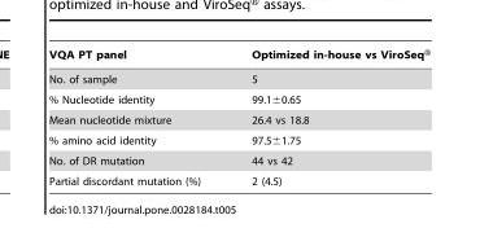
<table><thead><tr><td>VQA PT panel</td><td>Optimized in-house vs ViroSeq®</td></tr></thead><tbody><tr><td>No. of sample</td><td>5</td></tr><tr><td>% Nucleotide identity</td><td>99.1±0.65</td></tr><tr><td>Mean nucleotide mixture</td><td>26.4 vs 18.8</td></tr><tr><td>% amino acid identity</td><td>97.5±1.75</td></tr><tr><td>No. of DR mutation</td><td>44 vs 42</td></tr><tr><td>Partial discordant mutation (%)</td><td>2 (4.5)</td></tr></tbody></table>